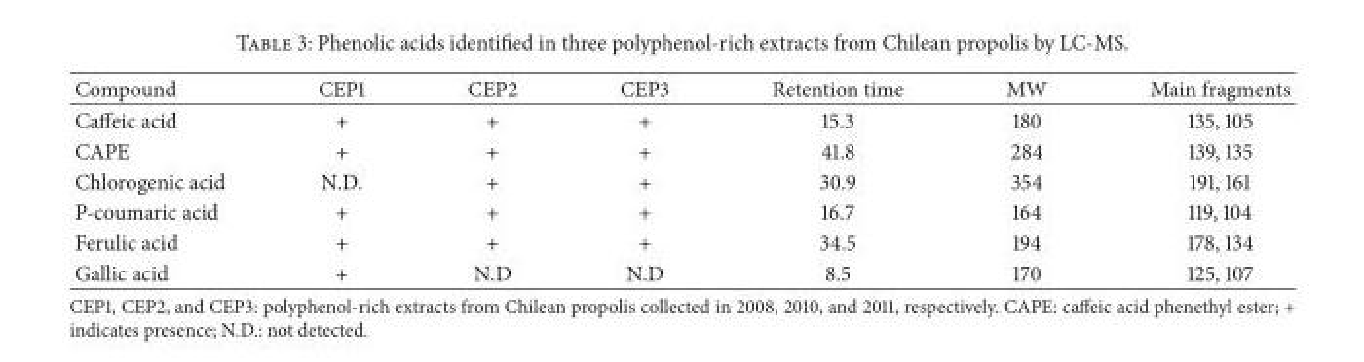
<table><thead><tr><td>Compound</td><td>CEP1</td><td>CEP2</td><td>CEP3</td><td>Retention time</td><td>MW</td><td>Main fragments</td></tr></thead><tbody><tr><td>Caffeic acid</td><td>+</td><td>+</td><td>+</td><td>15.3</td><td>180</td><td>135, 105</td></tr><tr><td>CAPE</td><td>+</td><td>+</td><td>+</td><td>41.8</td><td>284</td><td>139, 135</td></tr><tr><td>Chlorogenic acid</td><td>N.D.</td><td>+</td><td>+</td><td>30.9</td><td>354</td><td>191, 161</td></tr><tr><td>P-coumaric acid</td><td>+</td><td>+</td><td>+</td><td>16.7</td><td>164</td><td>119, 104</td></tr><tr><td>Ferulic acid</td><td>+</td><td>+</td><td>+</td><td>34.5</td><td>194</td><td>178, 134</td></tr><tr><td>Gallic acid</td><td>+</td><td>N.D</td><td>N.D</td><td>8.5</td><td>170</td><td>125, 107</td></tr></tbody></table>